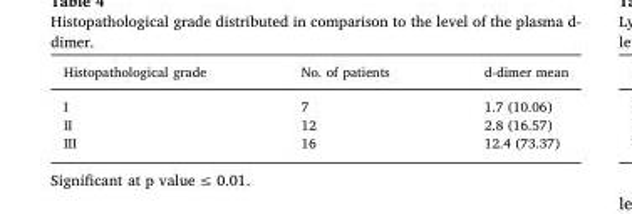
<table><thead><tr><td>Histopathological grade</td><td>No. of patients</td><td>d-dimer mean</td></tr></thead><tbody><tr><td>I</td><td>7</td><td>1.7 (10.06)</td></tr><tr><td>II</td><td>12</td><td>2.8 (16.57)</td></tr><tr><td>III</td><td>16</td><td>12.4 (73.37)</td></tr></tbody></table>